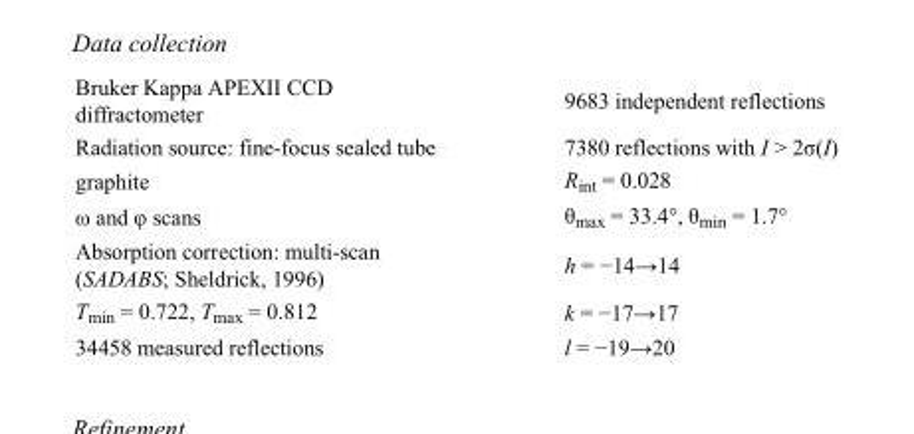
<table><tbody><tr><td>Bruker Kappa APEXII CCD diffractometer</td><td>9683 independent reflections</td></tr><tr><td>Radiation source: fine-focus sealed tube</td><td>7380 reflections with I &gt; 2σ(I)</td></tr><tr><td>graphite</td><td>R<sub>int</sub> = 0.028</td></tr><tr><td>ω and φ scans</td><td>θ<sub>max</sub> = 33.4°, θ<sub>min</sub> = 1.7°</td></tr><tr><td>Absorption correction: multi-scan (SADABS; Sheldrick, 1996)</td><td>h = −14→14</td></tr><tr><td>T<sub>min</sub> = 0.722, T<sub>max</sub> = 0.812</td><td>k = −17→17</td></tr><tr><td>34458 measured reflections</td><td>l = −19→20</td></tr></tbody></table>